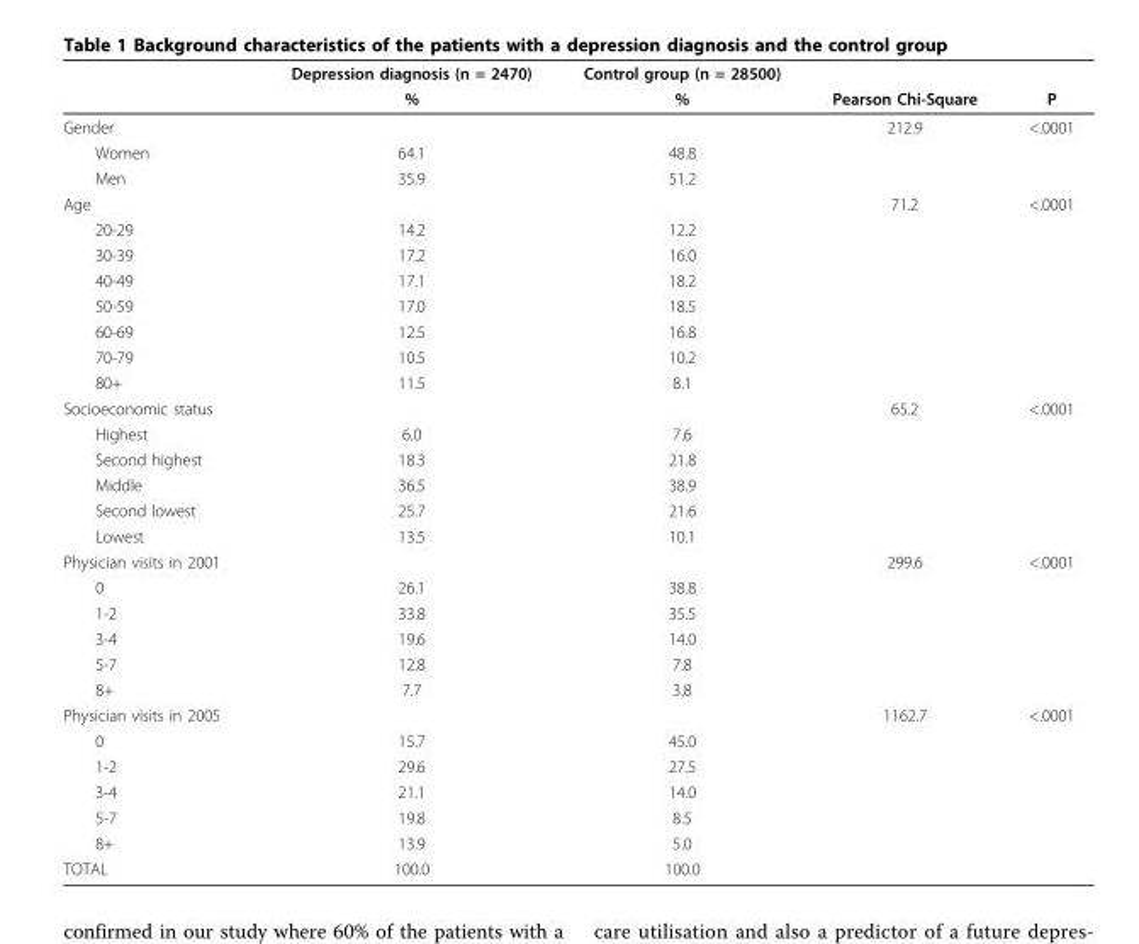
<table><thead><tr><td rowspan="2"></td><td rowspan="2">Depression diagnosis (n = 2470) %</td><td rowspan="2">Control group (n = 28500) %</td><td rowspan="2">Pearson Chi-Square</td><td rowspan="2">P</td></tr><tr></tr></thead><tbody><tr><td>Gender</td><td></td><td></td><td>212.9</td><td>&lt;.0001</td></tr><tr><td>Women</td><td>64.1</td><td>48.8</td><td></td><td></td></tr><tr><td>Men</td><td>35.9</td><td>51.2</td><td></td><td></td></tr><tr><td>Age</td><td></td><td></td><td>71.2</td><td>&lt;.0001</td></tr><tr><td>20-29</td><td>14.2</td><td>12.2</td><td></td><td></td></tr><tr><td>30-39</td><td>17.2</td><td>16.0</td><td></td><td></td></tr><tr><td>40-49</td><td>17.1</td><td>18.2</td><td></td><td></td></tr><tr><td>50-59</td><td>17.0</td><td>18.5</td><td></td><td></td></tr><tr><td>60-69</td><td>12.5</td><td>16.8</td><td></td><td></td></tr><tr><td>70-79</td><td>10.5</td><td>10.2</td><td></td><td></td></tr><tr><td>80+</td><td>11.5</td><td>8.1</td><td></td><td></td></tr><tr><td>Socioeconomic status</td><td></td><td></td><td>65.2</td><td>&lt;.0001</td></tr><tr><td>Highest</td><td>6.0</td><td>7.6</td><td></td><td></td></tr><tr><td>Second highest</td><td>18.3</td><td>21.8</td><td></td><td></td></tr><tr><td>Middle</td><td>36.5</td><td>38.9</td><td></td><td></td></tr><tr><td>Second lowest</td><td>25.7</td><td>21.6</td><td></td><td></td></tr><tr><td>Lowest</td><td>13.5</td><td>10.1</td><td></td><td></td></tr><tr><td>Physician visits in 2001</td><td></td><td></td><td>299.6</td><td>&lt;.0001</td></tr><tr><td>0</td><td>26.1</td><td>38.8</td><td></td><td></td></tr><tr><td>1-2</td><td>33.8</td><td>35.5</td><td></td><td></td></tr><tr><td>3-4</td><td>19.6</td><td>14.0</td><td></td><td></td></tr><tr><td>5-7</td><td>12.8</td><td>7.8</td><td></td><td></td></tr><tr><td>8+</td><td>7.7</td><td>3.8</td><td></td><td></td></tr><tr><td>Physician visits in 2005</td><td></td><td></td><td>1162.7</td><td>&lt;.0001</td></tr><tr><td>0</td><td>15.7</td><td>45.0</td><td></td><td></td></tr><tr><td>1-2</td><td>29.6</td><td>27.5</td><td></td><td></td></tr><tr><td>3-4</td><td>21.1</td><td>14.0</td><td></td><td></td></tr><tr><td>5-7</td><td>19.8</td><td>8.5</td><td></td><td></td></tr><tr><td>8+</td><td>13.9</td><td>5.0</td><td></td><td></td></tr><tr><td>TOTAL</td><td>100.0</td><td>100.0</td><td></td><td></td></tr></tbody></table>